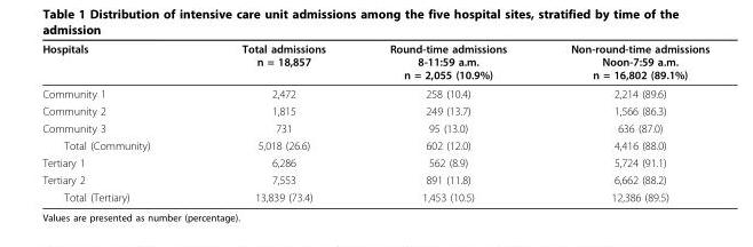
<table><thead><tr><td>Hospitals</td><td>Total admissions n = 18,857</td><td>Round-time admissions 8-11:59 a.m. n = 2,055 (10.9%)</td><td>Non-round-time admissions Noon-7:59 a.m. n = 16,802 (89.1%)</td></tr></thead><tbody><tr><td>Community 1</td><td>2,472</td><td>258 (10.4)</td><td>2,214 (89.6)</td></tr><tr><td>Community 2</td><td>1,815</td><td>249 (13.7)</td><td>1,566 (86.3)</td></tr><tr><td>Community 3</td><td>731</td><td>95 (13.0)</td><td>636 (87.0)</td></tr><tr><td>Total (Community)</td><td>5,018 (26.6)</td><td>602 (12.0)</td><td>4,416 (88.0)</td></tr><tr><td>Tertiary 1</td><td>6,286</td><td>562 (8.9)</td><td>5,724 (91.1)</td></tr><tr><td>Tertiary 2</td><td>7,553</td><td>891 (11.8)</td><td>6,662 (88.2)</td></tr><tr><td>Total (Tertiary)</td><td>13,839 (73.4)</td><td>1,453 (10.5)</td><td>12,386 (89.5)</td></tr></tbody></table>